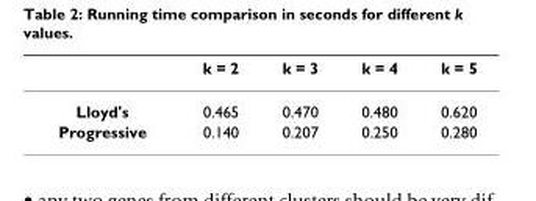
<table><thead><tr><td></td><td>k = 2</td><td>k = 3</td><td>k = 4</td><td>k = 5</td></tr></thead><tbody><tr><td>Lloyd&#x27;s</td><td>0.465</td><td>0.470</td><td>0.480</td><td>0.620</td></tr><tr><td>Progressive</td><td>0.140</td><td>0.207</td><td>0.250</td><td>0.280</td></tr></tbody></table>